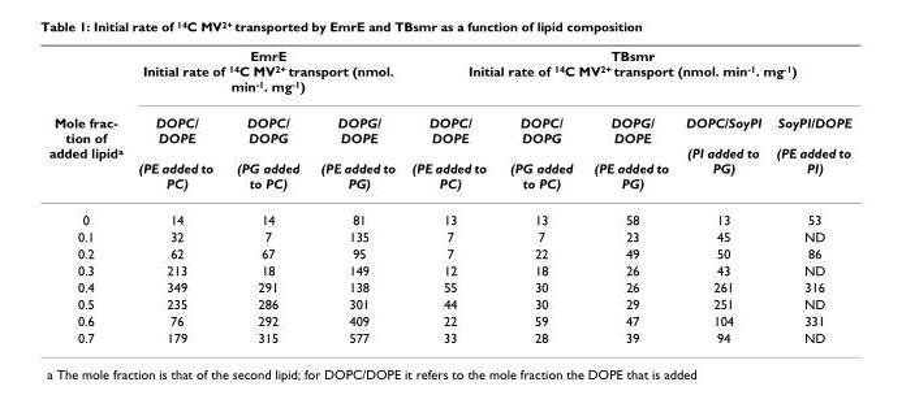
<table><thead><tr><td rowspan="2">Mole frac- tion of added lipida</td><td colspan="3">EmrE Initial rate of <sup>14</sup>C MV<sup>2+</sup> transport (nmol. min<sup>-1</sup>. mg<sup>-1</sup>)</td><td colspan="5">TBsmr Initial rate of <sup>14</sup>C MV<sup>2+</sup> transport (nmol. min<sup>-1</sup>. mg<sup>-1</sup>)</td></tr><tr><td>DOPC/ DOPE (PE added to PC)</td><td>DOPC/ DOPG (PG added to PC)</td><td>DOPG/ DOPE (PE added to PG)</td><td>DOPC/ DOPE (PE added to PC)</td><td>DOPC/ DOPG (PG added to PC)</td><td>DOPG/ DOPE (PE added to PG)</td><td>DOPC/SoyPI (PI added to PG)</td><td>SoyPI/DOPE (PE added to PI)</td></tr></thead><tbody><tr><td>0</td><td>14</td><td>14</td><td>81</td><td>13</td><td>13</td><td>58</td><td>13</td><td>53</td></tr><tr><td>0.1</td><td>32</td><td>7</td><td>135</td><td>7</td><td>7</td><td>23</td><td>45</td><td>ND</td></tr><tr><td>0.2</td><td>62</td><td>67</td><td>95</td><td>7</td><td>22</td><td>49</td><td>50</td><td>86</td></tr><tr><td>0.3</td><td>213</td><td>18</td><td>149</td><td>12</td><td>18</td><td>26</td><td>43</td><td>ND</td></tr><tr><td>0.4</td><td>349</td><td>291</td><td>138</td><td>55</td><td>30</td><td>26</td><td>261</td><td>316</td></tr><tr><td>0.5</td><td>235</td><td>286</td><td>301</td><td>44</td><td>30</td><td>29</td><td>251</td><td>ND</td></tr><tr><td>0.6</td><td>76</td><td>292</td><td>409</td><td>22</td><td>59</td><td>47</td><td>104</td><td>331</td></tr><tr><td>0.7</td><td>179</td><td>315</td><td>577</td><td>33</td><td>28</td><td>39</td><td>94</td><td>ND</td></tr></tbody></table>